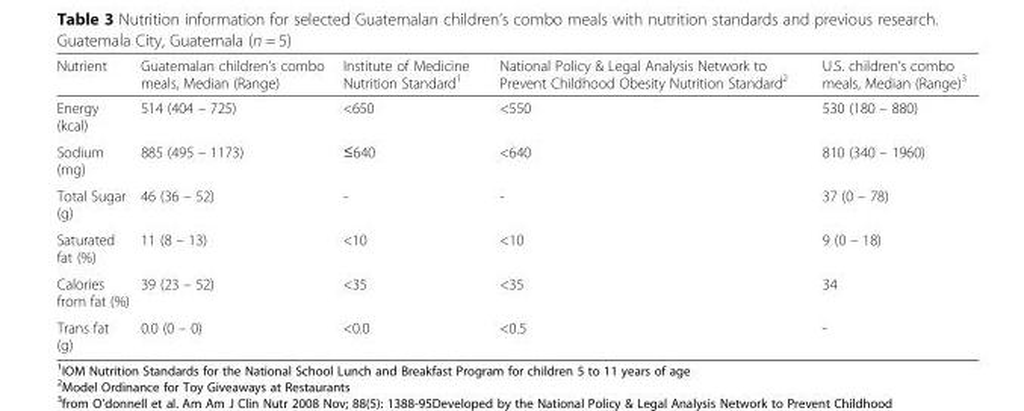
<table><thead><tr><td>Nutrient</td><td>Guatemalan children’s combo meals, Median (Range)</td><td>Institute of Medicine Nutrition Standard<sup>1</sup></td><td>National Policy &amp; Legal Analysis Network to Prevent Childhood Obesity Nutrition Standard<sup>2</sup></td><td>U.S. children’s combo meals, Median (Range)<sup>3</sup></td></tr></thead><tbody><tr><td>Energy (kcal)</td><td>514 (404 – 725)</td><td>&lt;650</td><td>&lt;550</td><td>530 (180 – 880)</td></tr><tr><td>Sodium (mg)</td><td>885 (495 – 1173)</td><td>≤640</td><td>&lt;640</td><td>810 (340 – 1960)</td></tr><tr><td>Total Sugar (g)</td><td>46 (36 – 52)</td><td>-</td><td>-</td><td>37 (0 – 78)</td></tr><tr><td>Saturated fat (%)</td><td>11 (8 – 13)</td><td>&lt;10</td><td>&lt;10</td><td>9 (0 – 18)</td></tr><tr><td>Calories from fat (%)</td><td>39 (23 – 52)</td><td>&lt;35</td><td>&lt;35</td><td>34</td></tr><tr><td>Trans fat (g)</td><td>0.0 (0 – 0)</td><td>&lt;0.0</td><td>&lt;0.5</td><td>-</td></tr></tbody></table>